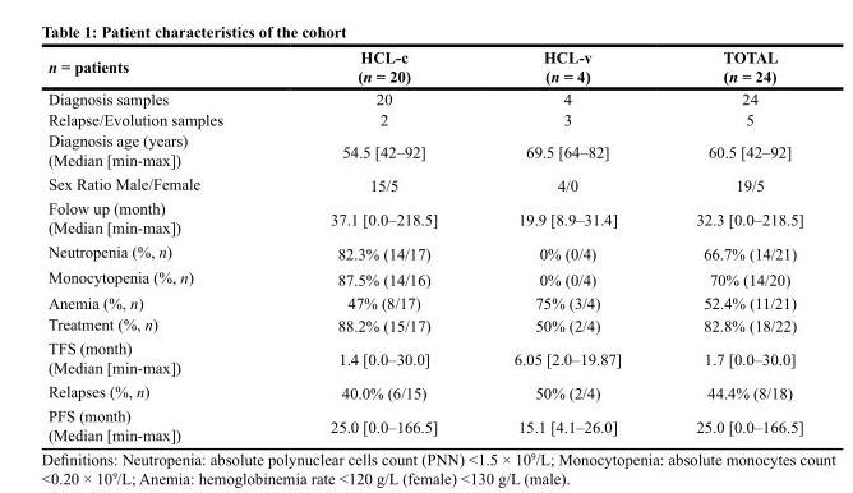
<table><thead><tr><td>n = patients</td><td>HCL-c (n = 20)</td><td>HCL-v (n = 4)</td><td>TOTAL (n = 24)</td></tr></thead><tbody><tr><td>Diagnosis samples</td><td>20</td><td>4</td><td>24</td></tr><tr><td>Relapse/Evolution samples</td><td>2</td><td>3</td><td>5</td></tr><tr><td>Diagnosis age (years) (Median [min-max])</td><td>54.5 [42–92]</td><td>69.5 [64–82]</td><td>60.5 [42–92]</td></tr><tr><td>Sex Ratio Male/Female</td><td>15/5</td><td>4/0</td><td>19/5</td></tr><tr><td>Folow up (month) (Median [min-max])</td><td>37.1 [0.0–218.5]</td><td>19.9 [8.9–31.4]</td><td>32.3 [0.0–218.5]</td></tr><tr><td>Neutropenia (%, n)</td><td>82.3% (14/17)</td><td>0% (0/4)</td><td>66.7% (14/21)</td></tr><tr><td>Monocytopenia (%, n)</td><td>87.5% (14/16)</td><td>0% (0/4)</td><td>70% (14/20)</td></tr><tr><td>Anemia (%, n)</td><td>47% (8/17)</td><td>75% (3/4)</td><td>52.4% (11/21)</td></tr><tr><td>Treatment (%, n)</td><td>88.2% (15/17)</td><td>50% (2/4)</td><td>82.8% (18/22)</td></tr><tr><td>TFS (month) (Median [min-max])</td><td>1.4 [0.0–30.0]</td><td>6.05 [2.0–19.87]</td><td>1.7 [0.0–30.0]</td></tr><tr><td>Relapses (%, n)</td><td>40.0% (6/15)</td><td>50% (2/4)</td><td>44.4% (8/18)</td></tr><tr><td>PFS (month) (Median [min-max])</td><td>25.0 [0.0–166.5]</td><td>15.1 [4.1–26.0]</td><td>25.0 [0.0–166.5]</td></tr></tbody></table>